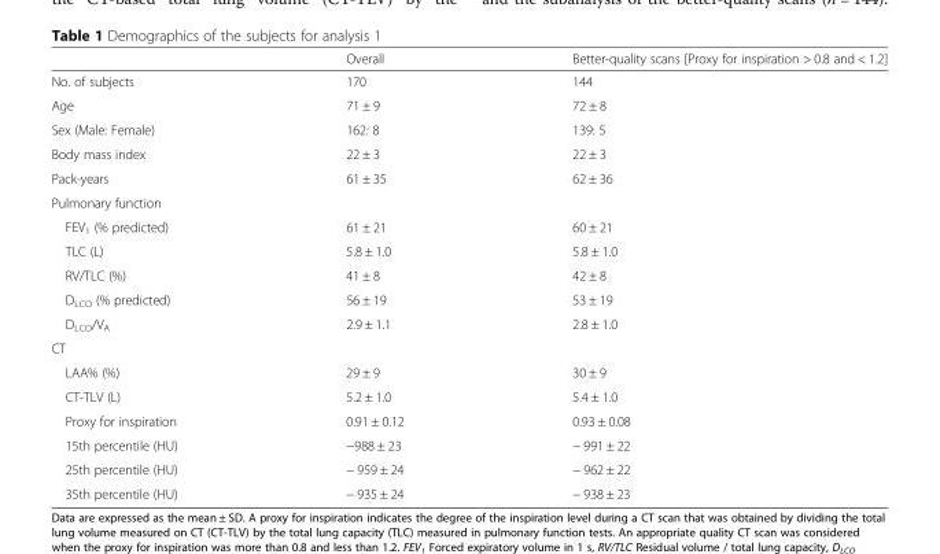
<table><thead><tr><td></td><td>Overall</td><td>Better-quality scans [Proxy for inspiration &gt; 0.8 and &lt; 1.2]</td></tr></thead><tbody><tr><td>No. of subjects</td><td>170</td><td>144</td></tr><tr><td>Age</td><td>71 ± 9</td><td>72 ± 8</td></tr><tr><td>Sex (Male: Female)</td><td>162: 8</td><td>139: 5</td></tr><tr><td>Body mass index</td><td>22 ± 3</td><td>22 ± 3</td></tr><tr><td>Pack-years</td><td>61 ± 35</td><td>62 ± 36</td></tr><tr><td colspan="3">Pulmonary function</td></tr><tr><td>FEV<sub>1</sub> (% predicted)</td><td>61 ± 21</td><td>60 ± 21</td></tr><tr><td>TLC (L)</td><td>5.8 ± 1.0</td><td>5.8 ± 1.0</td></tr><tr><td>RV/TLC (%)</td><td>41 ± 8</td><td>42 ± 8</td></tr><tr><td>D<sub>LCO</sub> (% predicted)</td><td>56 ± 19</td><td>53 ± 19</td></tr><tr><td>D<sub>LCO</sub>/V<sub>A</sub></td><td>2.9 ± 1.1</td><td>2.8 ± 1.0</td></tr><tr><td colspan="3">CT</td></tr><tr><td>LAA% (%)</td><td>29 ± 9</td><td>30 ± 9</td></tr><tr><td>CT-TLV (L)</td><td>5.2 ± 1.0</td><td>5.4 ± 1.0</td></tr><tr><td>Proxy for inspiration</td><td>0.91 ± 0.12</td><td>0.93 ± 0.08</td></tr><tr><td>15th percentile (HU)</td><td>−988 ± 23</td><td>− 991 ± 22</td></tr><tr><td>25th percentile (HU)</td><td>− 959 ± 24</td><td>− 962 ± 22</td></tr><tr><td>35th percentile (HU)</td><td>− 935 ± 24</td><td>− 938 ± 23</td></tr></tbody></table>